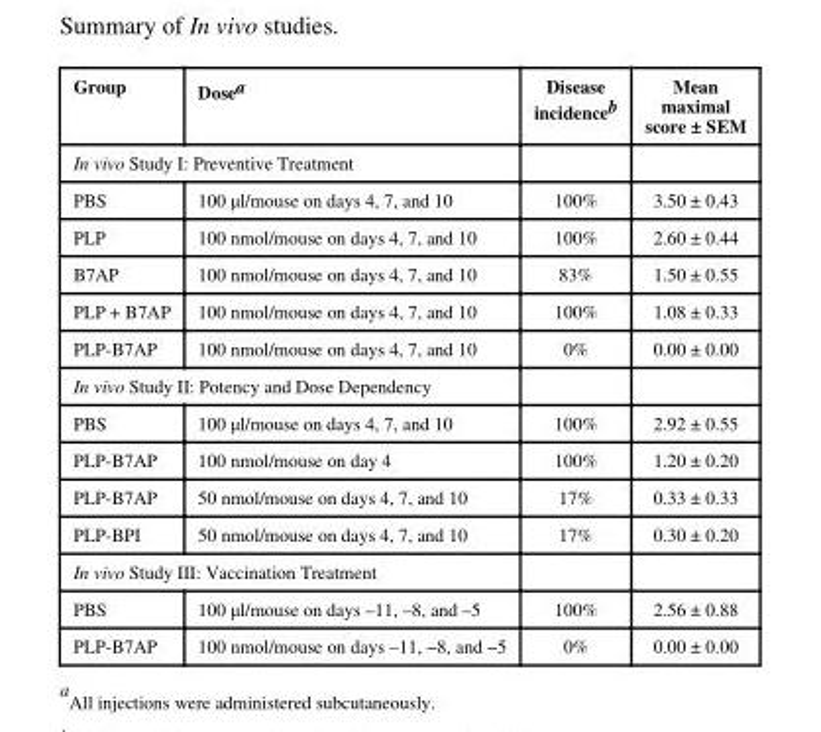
<table><thead><tr><td>Group</td><td>Dose<sup>a</sup></td><td>Disease incidence<sup>b</sup></td><td>Mean maximal score ± SEM</td></tr></thead><tbody><tr><td colspan="4">In vivo Study I: Preventive Treatment</td></tr><tr><td>PBS</td><td>100 µl/mouse on days 4, 7, and 10</td><td>100%</td><td>3.50 ± 0.43</td></tr><tr><td>PLP</td><td>100 nmol/mouse on days 4, 7, and 10</td><td>100%</td><td>2.60 ± 0.44</td></tr><tr><td>B7AP</td><td>100 nmol/mouse on days 4, 7, and 10</td><td>83%</td><td>1.50 ± 0.55</td></tr><tr><td>PLP + B7AP</td><td>100 nmol/mouse on days 4, 7, and 10</td><td>100%</td><td>1.08 ± 0.33</td></tr><tr><td>PLP-B7AP</td><td>100 nmol/mouse on days 4, 7, and 10</td><td>0%</td><td>0.00 ± 0.00</td></tr><tr><td colspan="4">In vivo Study II: Potency and Dose Dependency</td></tr><tr><td>PBS</td><td>100 µl/mouse on days 4, 7, and 10</td><td>100%</td><td>2.92 ± 0.55</td></tr><tr><td>PLP-B7AP</td><td>100 nmol/mouse on day 4</td><td>100%</td><td>1.20 ± 0.20</td></tr><tr><td>PLP-B7AP</td><td>50 nmol/mouse on days 4, 7, and 10</td><td>17%</td><td>0.33 ± 0.33</td></tr><tr><td>PLP-BPI</td><td>50 nmol/mouse on days 4, 7, and 10</td><td>17%</td><td>0.30 ± 0.20</td></tr><tr><td colspan="4">In vivo Study III: Vaccination Treatment</td></tr><tr><td>PBS</td><td>100 µl/mouse on days –11, –8, and –5</td><td>100%</td><td>2.56 ± 0.88</td></tr><tr><td>PLP-B7AP</td><td>100 nmol/mouse on days –11, −8, and −5</td><td>0%</td><td>0.00 ± 0.00</td></tr></tbody></table>